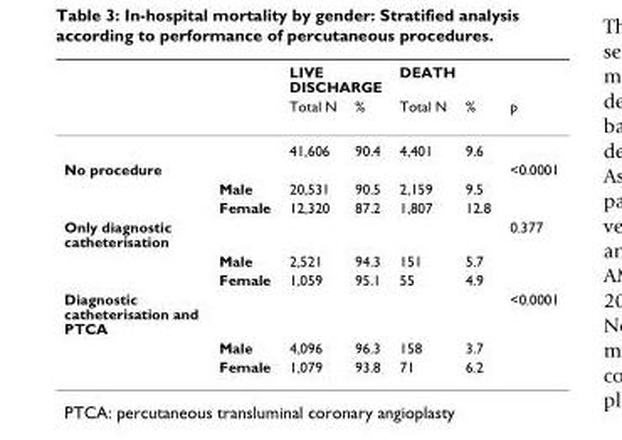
<table><thead><tr><td rowspan="2"></td><td rowspan="2"></td><td colspan="2">LIVE DISCHARGE</td><td colspan="2">DEATH</td><td rowspan="2">p</td></tr><tr><td>Total N</td><td>%</td><td>Total N</td><td>%</td></tr></thead><tbody><tr><td></td><td></td><td>41,606</td><td>90.4</td><td>4,401</td><td>9.6</td><td></td></tr><tr><td rowspan="3">No procedure</td><td></td><td></td><td></td><td></td><td></td><td>&lt;0.0001</td></tr><tr><td>Male</td><td>20,531</td><td>90.5</td><td>2,159</td><td>9.5</td><td></td></tr><tr><td>Female</td><td>12,320</td><td>87.2</td><td>1,807</td><td>12.8</td><td></td></tr><tr><td rowspan="3">Only diagnostic catheterisation</td><td></td><td></td><td></td><td></td><td></td><td>0.377</td></tr><tr><td>Male</td><td>2,521</td><td>94.3</td><td>151</td><td>5.7</td><td></td></tr><tr><td>Female</td><td>1,059</td><td>95.1</td><td>55</td><td>4.9</td><td></td></tr><tr><td rowspan="3">Diagnostic catheterisation and PTCA</td><td></td><td></td><td></td><td></td><td></td><td>&lt;0.0001</td></tr><tr><td>Male</td><td>4,096</td><td>96.3</td><td>158</td><td>3.7</td><td></td></tr><tr><td>Female</td><td>1,079</td><td>93.8</td><td>71</td><td>6.2</td><td></td></tr></tbody></table>